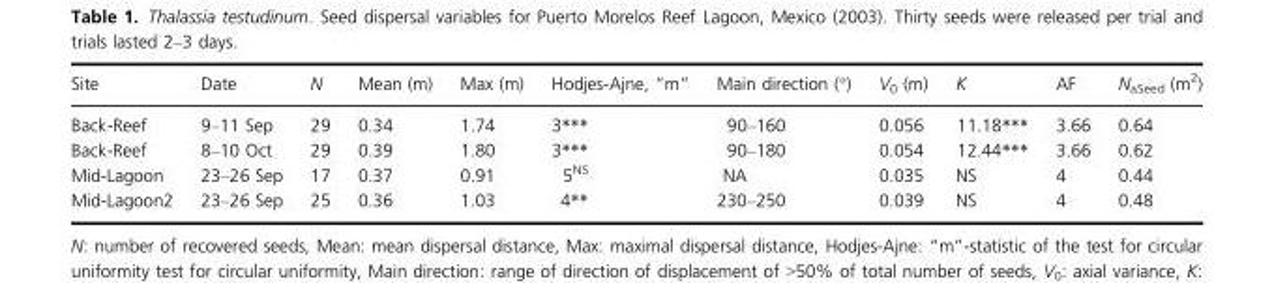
<table><thead><tr><td>Site</td><td>Date</td><td>N</td><td>Mean (m)</td><td>Max (m)</td><td>Hodjes-Ajne, “m”</td><td>Main direction (°)</td><td>V<sub>0</sub> (m)</td><td>K</td><td>AF</td><td>N<sub>aSeed</sub> (m<sup>2</sup>)</td></tr></thead><tbody><tr><td>Back-Reef</td><td>9–11 Sep</td><td>29</td><td>0.34</td><td>1.74</td><td>3***</td><td>90–160</td><td>0.056</td><td>11.18***</td><td>3.66</td><td>0.64</td></tr><tr><td>Back-Reef</td><td>8–10 Oct</td><td>29</td><td>0.39</td><td>1.80</td><td>3***</td><td>90–180</td><td>0.054</td><td>12.44***</td><td>3.66</td><td>0.62</td></tr><tr><td>Mid-Lagoon</td><td>23–26 Sep</td><td>17</td><td>0.37</td><td>0.91</td><td>5<sup>NS</sup></td><td>NA</td><td>0.035</td><td>NS</td><td>4</td><td>0.44</td></tr><tr><td>Mid-Lagoon2</td><td>23–26 Sep</td><td>25</td><td>0.36</td><td>1.03</td><td>4**</td><td>230–250</td><td>0.039</td><td>NS</td><td>4</td><td>0.48</td></tr></tbody></table>